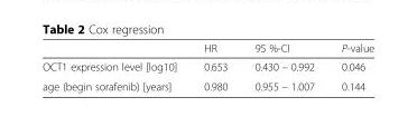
<table><thead><tr><td></td><td>HR</td><td>95 %-CI</td><td>P-value</td></tr></thead><tbody><tr><td>OCT1 expression level [log10]</td><td>0.653</td><td>0.430 – 0.992</td><td>0.046</td></tr><tr><td>age (begin sorafenib) [years]</td><td>0.980</td><td>0.955 – 1.007</td><td>0.144</td></tr></tbody></table>